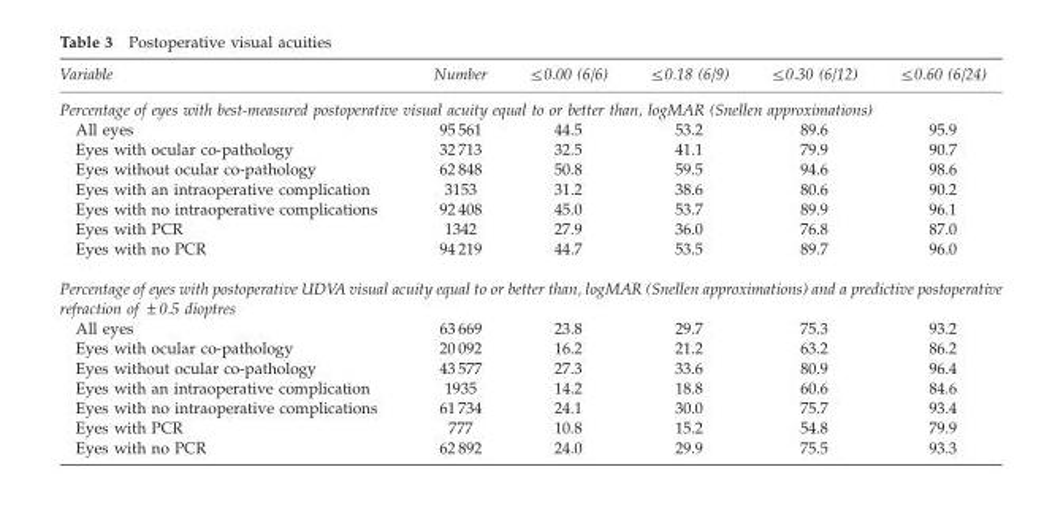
<table><thead><tr><td>Variable</td><td>Number</td><td>≤0.00 (6/6)</td><td>≤0.18 (6/9)</td><td>≤0.30 (6/12)</td><td>≤0.60 (6/24)</td></tr></thead><tbody><tr><td colspan="6">Percentage of eyes with best-measured postoperative visual acuity equal to or better than, logMAR (Snellen approximations)</td></tr><tr><td>All eyes</td><td>95 561</td><td>44.5</td><td>53.2</td><td>89.6</td><td>95.9</td></tr><tr><td>Eyes with ocular co-pathology</td><td>32 713</td><td>32.5</td><td>41.1</td><td>79.9</td><td>90.7</td></tr><tr><td>Eyes without ocular co-pathology</td><td>62 848</td><td>50.8</td><td>59.5</td><td>94.6</td><td>98.6</td></tr><tr><td>Eyes with an intraoperative complication</td><td>3153</td><td>31.2</td><td>38.6</td><td>80.6</td><td>90.2</td></tr><tr><td>Eyes with no intraoperative complications</td><td>92 408</td><td>45.0</td><td>53.7</td><td>89.9</td><td>96.1</td></tr><tr><td>Eyes with PCR</td><td>1342</td><td>27.9</td><td>36.0</td><td>76.8</td><td>87.0</td></tr><tr><td>Eyes with no PCR</td><td>94 219</td><td>44.7</td><td>53.5</td><td>89.7</td><td>96.0</td></tr><tr><td colspan="6">Percentage of eyes with postoperative UDVA visual acuity equal to or better than, logMAR (Snellen approximations) and a predictive postoperative refraction of ±0.5 dioptres</td></tr><tr><td>All eyes</td><td>63 669</td><td>23.8</td><td>29.7</td><td>75.3</td><td>93.2</td></tr><tr><td>Eyes with ocular co-pathology</td><td>20 092</td><td>16.2</td><td>21.2</td><td>63.2</td><td>86.2</td></tr><tr><td>Eyes without ocular co-pathology</td><td>43 577</td><td>27.3</td><td>33.6</td><td>80.9</td><td>96.4</td></tr><tr><td>Eyes with an intraoperative complication</td><td>1935</td><td>14.2</td><td>18.8</td><td>60.6</td><td>84.6</td></tr><tr><td>Eyes with no intraoperative complications</td><td>61 734</td><td>24.1</td><td>30.0</td><td>75.7</td><td>93.4</td></tr><tr><td>Eyes with PCR</td><td>777</td><td>10.8</td><td>15.2</td><td>54.8</td><td>79.9</td></tr><tr><td>Eyes with no PCR</td><td>62 892</td><td>24.0</td><td>29.9</td><td>75.5</td><td>93.3</td></tr></tbody></table>